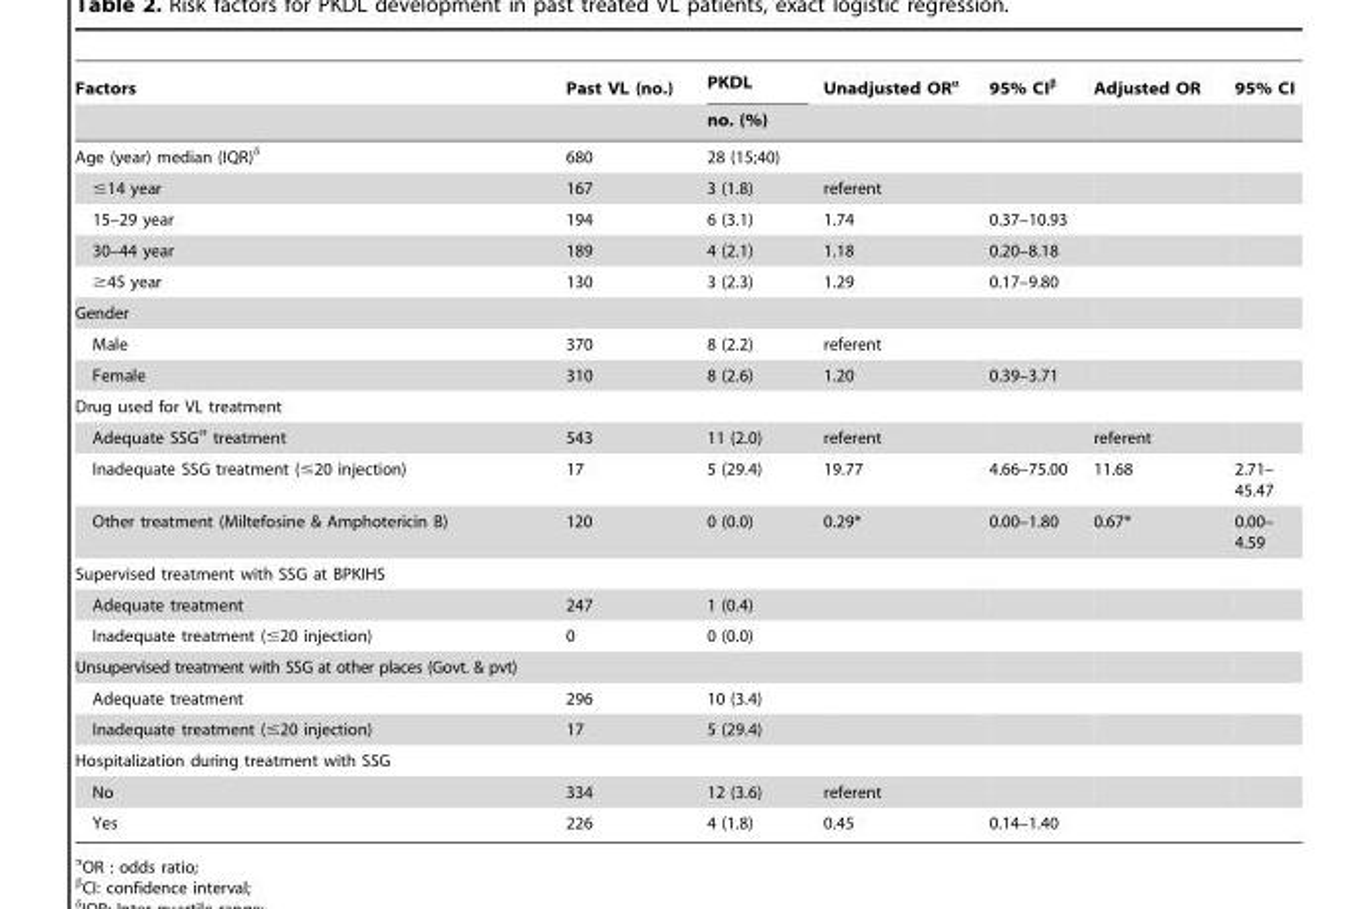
<table><thead><tr><td rowspan="2">Factors</td><td rowspan="2">Past VL (no.)</td><td rowspan="2">PKDL no. (%)</td><td rowspan="2">Unadjusted ORα</td><td rowspan="2">95% CIβ</td><td rowspan="2">Adjusted OR</td><td rowspan="2">95% CI</td></tr><tr></tr></thead><tbody><tr><td>Age (year) median (IQR)δ</td><td>680</td><td>28 (15;40)</td><td></td><td></td><td></td><td></td></tr><tr><td>≤14 year</td><td>167</td><td>3 (1.8)</td><td>referent</td><td></td><td></td><td></td></tr><tr><td>15–29 year</td><td>194</td><td>6 (3.1)</td><td>1.74</td><td>0.37–10.93</td><td></td><td></td></tr><tr><td>30–44 year</td><td>189</td><td>4 (2.1)</td><td>1.18</td><td>0.20–8.18</td><td></td><td></td></tr><tr><td>≥45 year</td><td>130</td><td>3 (2.3)</td><td>1.29</td><td>0.17–9.80</td><td></td><td></td></tr><tr><td colspan="7">Gender</td></tr><tr><td>Male</td><td>370</td><td>8 (2.2)</td><td>referent</td><td></td><td></td><td></td></tr><tr><td>Female</td><td>310</td><td>8 (2.6)</td><td>1.20</td><td>0.39–3.71</td><td></td><td></td></tr><tr><td colspan="7">Drug used for VL treatment</td></tr><tr><td>Adequate SSGσ treatment</td><td>543</td><td>11 (2.0)</td><td>referent</td><td></td><td>referent</td><td></td></tr><tr><td>Inadequate SSG treatment (≤20 injection)</td><td>17</td><td>5 (29.4)</td><td>19.77</td><td>4.66–75.00</td><td>11.68</td><td>2.71– 45.47</td></tr><tr><td>Other treatment (Miltefosine &amp; Amphotericin B)</td><td>120</td><td>0 (0.0)</td><td>0.29*</td><td>0.00–1.80</td><td>0.67*</td><td>0.00– 4.59</td></tr><tr><td colspan="7">Supervised treatment with SSG at BPKIHS</td></tr><tr><td>Adequate treatment</td><td>247</td><td>1 (0.4)</td><td></td><td></td><td></td><td></td></tr><tr><td>Inadequate treatment (≤20 injection)</td><td>0</td><td>0 (0.0)</td><td></td><td></td><td></td><td></td></tr><tr><td colspan="7">Unsupervised treatment with SSG at other places (Govt. &amp; pvt)</td></tr><tr><td>Adequate treatment</td><td>296</td><td>10 (3.4)</td><td></td><td></td><td></td><td></td></tr><tr><td>Inadequate treatment (≤20 injection)</td><td>17</td><td>5 (29.4)</td><td></td><td></td><td></td><td></td></tr><tr><td colspan="7">Hospitalization during treatment with SSG</td></tr><tr><td>No</td><td>334</td><td>12 (3.6)</td><td>referent</td><td></td><td></td><td></td></tr><tr><td>Yes</td><td>226</td><td>4 (1.8)</td><td>0.45</td><td>0.14–1.40</td><td></td><td></td></tr></tbody></table>